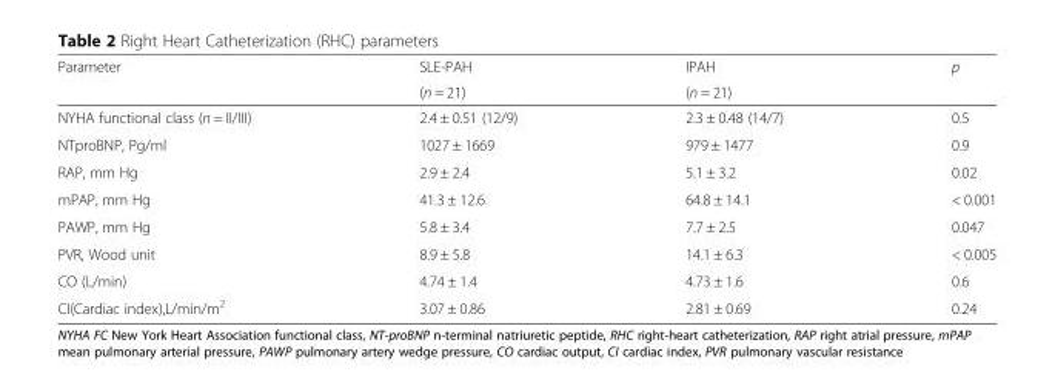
<table><thead><tr><td rowspan="2">Parameter</td><td rowspan="2">SLE-PAH (n = 21)</td><td rowspan="2">IPAH (n = 21)</td><td rowspan="2">p</td></tr><tr></tr></thead><tbody><tr><td>NYHA functional class (n = II/III)</td><td>2.4 ± 0.51 (12/9)</td><td>2.3 ± 0.48 (14/7)</td><td>0.5</td></tr><tr><td>NTproBNP, Pg/ml</td><td>1027 ± 1669</td><td>979 ± 1477</td><td>0.9</td></tr><tr><td>RAP, mm Hg</td><td>2.9 ± 2.4</td><td>5.1 ± 3.2</td><td>0.02</td></tr><tr><td>mPAP, mm Hg</td><td>41.3 ± 12.6</td><td>64.8 ± 14.1</td><td>&lt; 0.001</td></tr><tr><td>PAWP, mm Hg</td><td>5.8 ± 3.4</td><td>7.7 ± 2.5</td><td>0.047</td></tr><tr><td>PVR, Wood unit</td><td>8.9 ± 5.8</td><td>14.1 ± 6.3</td><td>&lt; 0.005</td></tr><tr><td>CO (L/min)</td><td>4.74 ± 1.4</td><td>4.73 ± 1.6</td><td>0.6</td></tr><tr><td>CI(Cardiac index),L/min/m<sup>2</sup></td><td>3.07 ± 0.86</td><td>2.81 ± 0.69</td><td>0.24</td></tr></tbody></table>